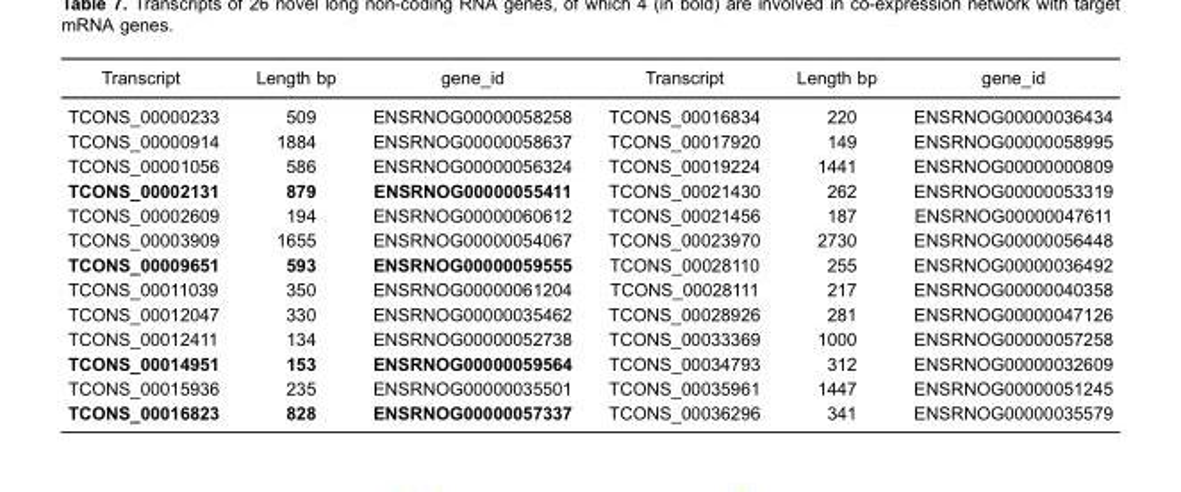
<table><thead><tr><td>Transcript</td><td>Length bp</td><td>gene_id</td><td>Transcript</td><td>Length bp</td><td>gene_id</td></tr></thead><tbody><tr><td>TCONS_00000233</td><td>509</td><td>ENSRNOG00000058258</td><td>TCONS_00016834</td><td>220</td><td>ENSRNOG00000036434</td></tr><tr><td>TCONS_00000914</td><td>1884</td><td>ENSRNOG00000058637</td><td>TCONS_00017920</td><td>149</td><td>ENSRNOG00000058995</td></tr><tr><td>TCONS_00001056</td><td>586</td><td>ENSRNOG00000056324</td><td>TCONS_00019224</td><td>1441</td><td>ENSRNOG00000000809</td></tr><tr><td>TCONS_00002131</td><td>879</td><td>ENSRNOG00000055411</td><td>TCONS_00021430</td><td>262</td><td>ENSRNOG00000053319</td></tr><tr><td>TCONS_00002609</td><td>194</td><td>ENSRNOG00000060612</td><td>TCONS_00021456</td><td>187</td><td>ENSRNOG00000047611</td></tr><tr><td>TCONS_00003909</td><td>1655</td><td>ENSRNOG00000054067</td><td>TCONS_00023970</td><td>2730</td><td>ENSRNOG00000056448</td></tr><tr><td>TCONS_00009651</td><td>593</td><td>ENSRNOG00000059555</td><td>TCONS_00028110</td><td>255</td><td>ENSRNOG00000036492</td></tr><tr><td>TCONS_00011039</td><td>350</td><td>ENSRNOG00000061204</td><td>TCONS_00028111</td><td>217</td><td>ENSRNOG00000040358</td></tr><tr><td>TCONS_00012047</td><td>330</td><td>ENSRNOG00000035462</td><td>TCONS_00028926</td><td>281</td><td>ENSRNOG00000047126</td></tr><tr><td>TCONS_00012411</td><td>134</td><td>ENSRNOG00000052738</td><td>TCONS_00033369</td><td>1000</td><td>ENSRNOG00000057258</td></tr><tr><td>TCONS_00014951</td><td>153</td><td>ENSRNOG00000059564</td><td>TCONS_00034793</td><td>312</td><td>ENSRNOG00000032609</td></tr><tr><td>TCONS_00015936</td><td>235</td><td>ENSRNOG00000035501</td><td>TCONS_00035961</td><td>1447</td><td>ENSRNOG00000051245</td></tr><tr><td>TCONS_00016823</td><td>828</td><td>ENSRNOG00000057337</td><td>TCONS_00036296</td><td>341</td><td>ENSRNOG00000035579</td></tr></tbody></table>